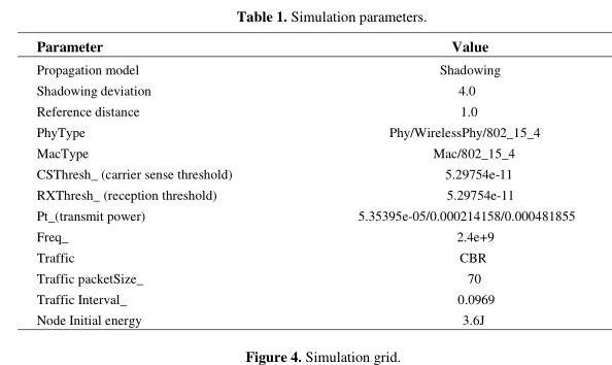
<table><thead><tr><td>Parameter</td><td>Value</td></tr></thead><tbody><tr><td>Propagation model</td><td>Shadowing</td></tr><tr><td>Shadowing deviation</td><td>4.0</td></tr><tr><td>Reference distance</td><td>1.0</td></tr><tr><td>PhyType</td><td>Phy/WirelessPhy/802_15_4</td></tr><tr><td>MacType</td><td>Mac/802_15_4</td></tr><tr><td>CSThresh_ (carrier sense threshold)</td><td>5.29754e-11</td></tr><tr><td>RXThresh_ (reception threshold)</td><td>5.29754e-11</td></tr><tr><td>Pt_(transmit power)</td><td>5.35395e-05/0.000214158/0.000481855</td></tr><tr><td>Freq_</td><td>2.4e+9</td></tr><tr><td>Traffic</td><td>CBR</td></tr><tr><td>Traffic packetSize_</td><td>70</td></tr><tr><td>Traffic Interval_</td><td>0.0969</td></tr><tr><td>Node Initial energy</td><td>3.6J</td></tr></tbody></table>